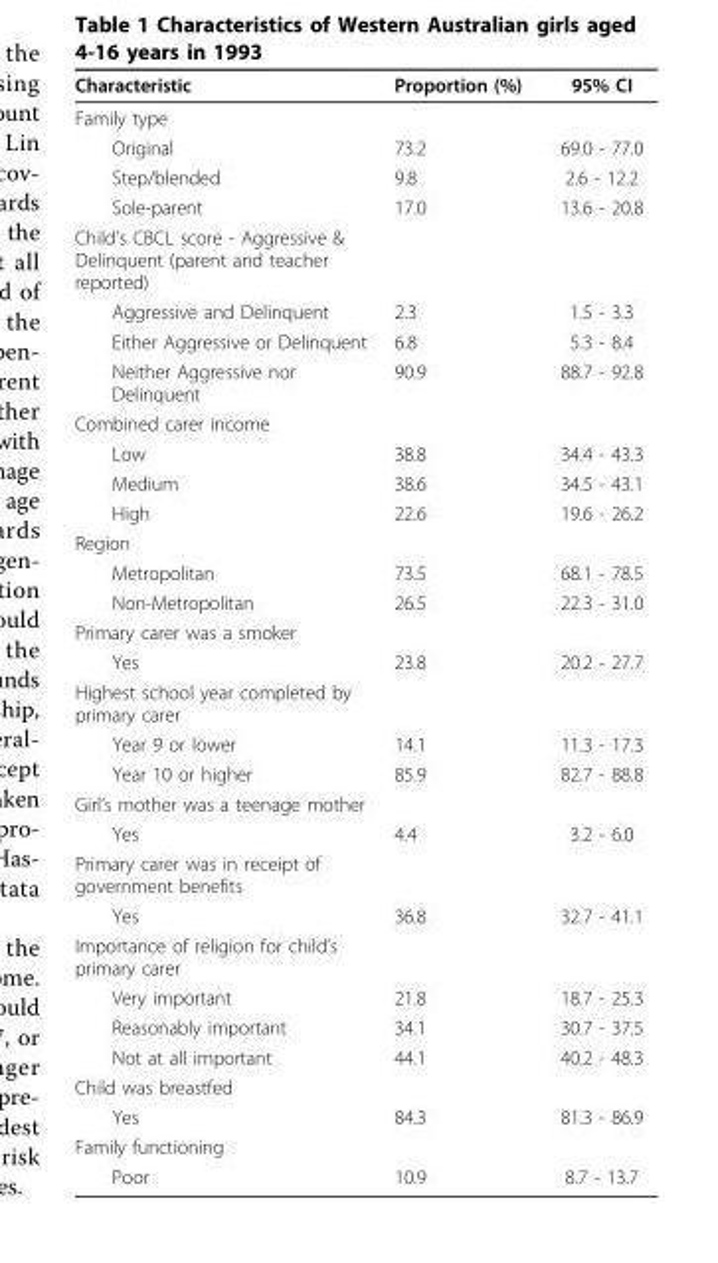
<table><thead><tr><td>Characteristic</td><td>Proportion (%)</td><td>95% CI</td></tr></thead><tbody><tr><td colspan="3">Family type</td></tr><tr><td>Original</td><td>73.2</td><td>69.0 - 77.0</td></tr><tr><td>Step/blended</td><td>9.8</td><td>2.6 - 12.2</td></tr><tr><td>Sole-parent</td><td>17.0</td><td>13.6 - 20.8</td></tr><tr><td colspan="3">Child’s CBCL score - Aggressive &amp; Delinquent (parent and teacher reported)</td></tr><tr><td>Aggressive and Delinquent</td><td>2.3</td><td>1.5 - 3.3</td></tr><tr><td>Either Aggressive or Delinquent</td><td>6.8</td><td>5.3 - 8.4</td></tr><tr><td>Neither Aggressive nor Delinquent</td><td>90.9</td><td>88.7 - 92.8</td></tr><tr><td colspan="3">Combined carer income</td></tr><tr><td>Low</td><td>38.8</td><td>34.4 - 43.3</td></tr><tr><td>Medium</td><td>38.6</td><td>34.5 - 43.1</td></tr><tr><td>High</td><td>22.6</td><td>19.6 - 26.2</td></tr><tr><td colspan="3">Region</td></tr><tr><td>Metropolitan</td><td>73.5</td><td>68.1 - 78.5</td></tr><tr><td>Non-Metropolitan</td><td>26.5</td><td>22.3 - 31.0</td></tr><tr><td colspan="3">Primary carer was a smoker</td></tr><tr><td>Yes</td><td>23.8</td><td>20.2 - 27.7</td></tr><tr><td colspan="3">Highest school year completed by primary carer</td></tr><tr><td>Year 9 or lower</td><td>14.1</td><td>11.3 - 17.3</td></tr><tr><td>Year 10 or higher</td><td>85.9</td><td>82.7 - 88.8</td></tr><tr><td colspan="3">Girl’s mother was a teenage mother</td></tr><tr><td>Yes</td><td>4.4</td><td>3.2 - 6.0</td></tr><tr><td colspan="3">Primary carer was in receipt of government benefits</td></tr><tr><td>Yes</td><td>36.8</td><td>32.7 - 41.1</td></tr><tr><td colspan="3">Importance of religion for child’s primary carer</td></tr><tr><td>Very important</td><td>21.8</td><td>18.7 - 25.3</td></tr><tr><td>Reasonably important</td><td>34.1</td><td>30.7 - 37.5</td></tr><tr><td>Not at all important</td><td>44.1</td><td>40.2 - 48.3</td></tr><tr><td colspan="3">Child was breastfed</td></tr><tr><td>Yes</td><td>84.3</td><td>81.3 - 86.9</td></tr><tr><td colspan="3">Family functioning</td></tr><tr><td>Poor</td><td>10.9</td><td>8.7 - 13.7</td></tr></tbody></table>